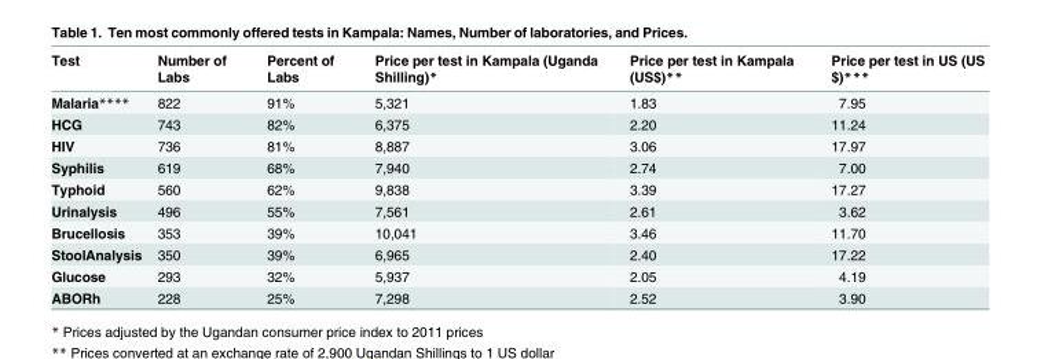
<table><thead><tr><td>Test</td><td>Number of Labs</td><td>Percent of Labs</td><td>Price per test in Kampala (Uganda Shilling)*</td><td>Price per test in Kampala (US$)**</td><td>Price per test in US (US $)***</td></tr></thead><tbody><tr><td>Malaria****</td><td>822</td><td>91%</td><td>5,321</td><td>1.83</td><td>7.95</td></tr><tr><td>HCG</td><td>743</td><td>82%</td><td>6,375</td><td>2.20</td><td>11.24</td></tr><tr><td>HIV</td><td>736</td><td>81%</td><td>8,887</td><td>3.06</td><td>17.97</td></tr><tr><td>Syphilis</td><td>619</td><td>68%</td><td>7,940</td><td>2.74</td><td>7.00</td></tr><tr><td>Typhoid</td><td>560</td><td>62%</td><td>9,838</td><td>3.39</td><td>17.27</td></tr><tr><td>Urinalysis</td><td>496</td><td>55%</td><td>7,561</td><td>2.61</td><td>3.62</td></tr><tr><td>Brucellosis</td><td>353</td><td>39%</td><td>10,041</td><td>3.46</td><td>11.70</td></tr><tr><td>StoolAnalysis</td><td>350</td><td>39%</td><td>6,965</td><td>2.40</td><td>17.22</td></tr><tr><td>Glucose</td><td>293</td><td>32%</td><td>5,937</td><td>2.05</td><td>4.19</td></tr><tr><td>ABORh</td><td>228</td><td>25%</td><td>7,298</td><td>2.52</td><td>3.90</td></tr></tbody></table>